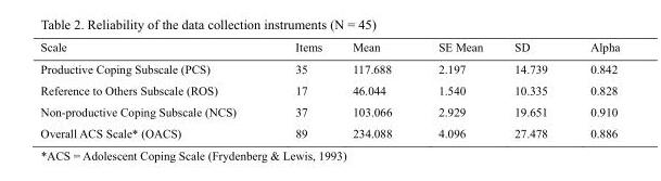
<table><thead><tr><td>Scale</td><td>Items</td><td>Mean</td><td>SE Mean</td><td>SD</td><td>Alpha</td></tr></thead><tbody><tr><td>Productive Coping Subscale (PCS)</td><td>35</td><td>117.688</td><td>2.197</td><td>14.739</td><td>0.842</td></tr><tr><td>Reference to Others Subscale (ROS)</td><td>17</td><td>46.044</td><td>1.540</td><td>10.335</td><td>0.828</td></tr><tr><td>Non-productive Coping Subscale (NCS)</td><td>37</td><td>103.066</td><td>2.929</td><td>19.651</td><td>0.910</td></tr><tr><td>Overall ACS Scale* (OACS)</td><td>89</td><td>234.088</td><td>4.096</td><td>27.478</td><td>0.886</td></tr></tbody></table>